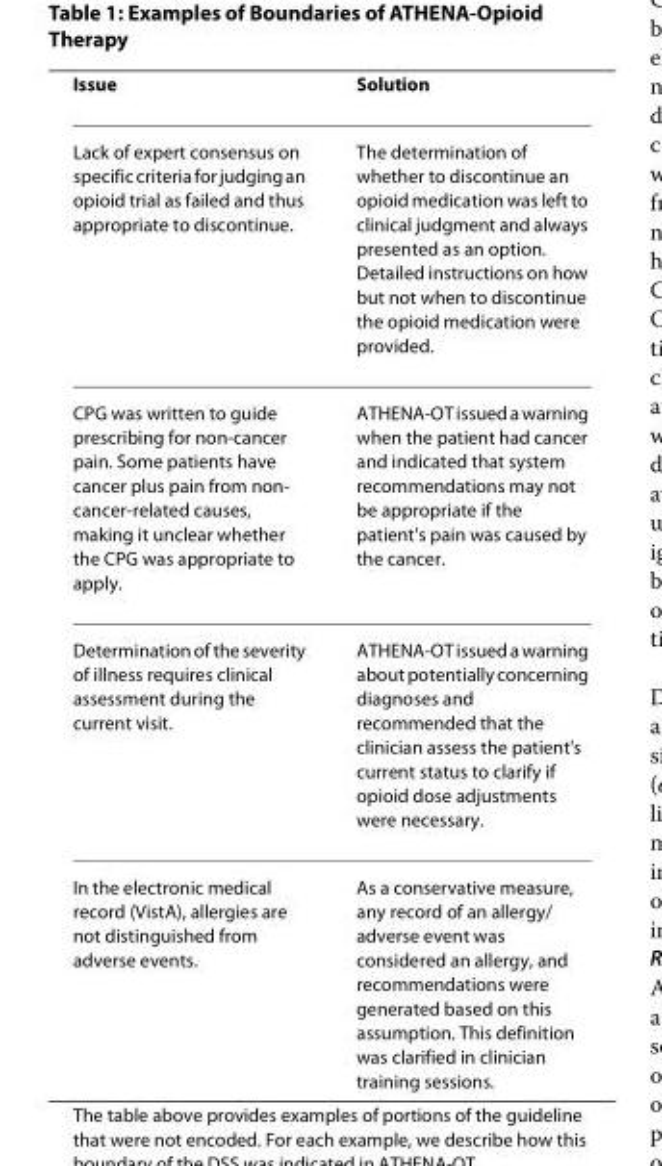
<table><thead><tr><td>Issue</td><td>Solution</td></tr></thead><tbody><tr><td>Lack of expert consensus on specific criteria for judging an opioid trial as failed and thus appropriate to discontinue.</td><td>The determination of whether to discontinue an opioid medication was left to clinical judgment and always presented as an option. Detailed instructions on how but not when to discontinue the opioid medication were provided.</td></tr><tr><td>CPG was written to guide prescribing for non-cancer pain. Some patients have cancer plus pain from non- cancer-related causes, making it unclear whether the CPG was appropriate to apply.</td><td>ATHENA-OT issued a warning when the patient had cancer and indicated that system recommendations may not be appropriate if the patient&#x27;s pain was caused by the cancer.</td></tr><tr><td>Determination of the severity of illness requires clinical assessment during the current visit.</td><td>ATHENA-OT issued a warning about potentially concerning diagnoses and recommended that the clinician assess the patient&#x27;s current status to clarify if opioid dose adjustments were necessary.</td></tr><tr><td>In the electronic medical record (VistA), allergies are not distinguished from adverse events.</td><td>As a conservative measure, any record of an allergy/ adverse event was considered an allergy, and recommendations were generated based on this assumption. This definition was clarified in clinician training sessions.</td></tr></tbody></table>